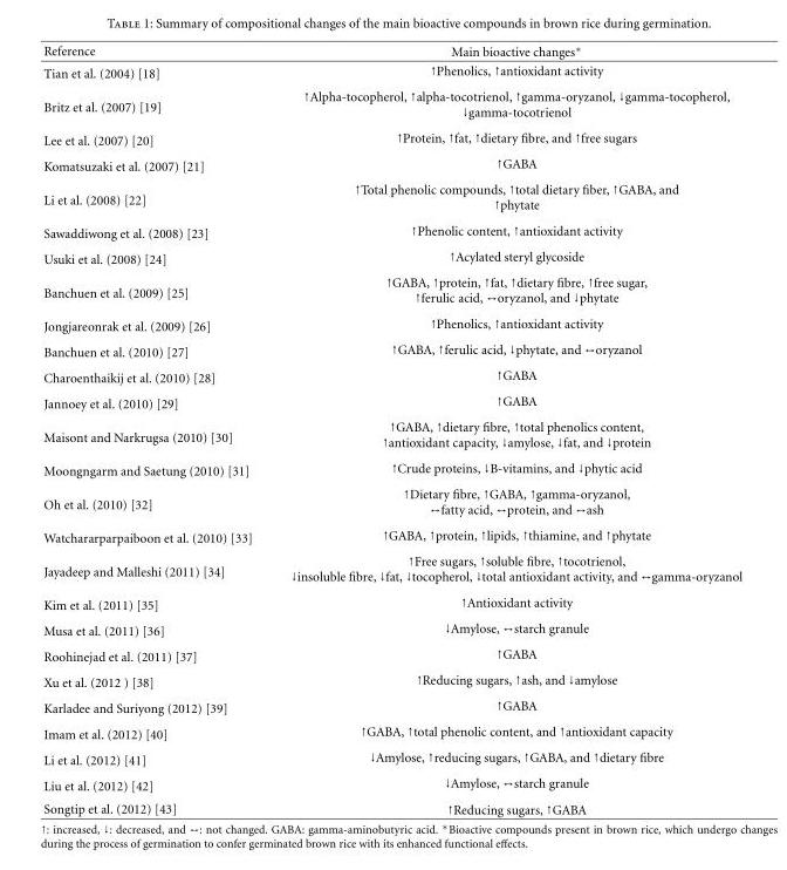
<table><thead><tr><td>Reference</td><td>Main bioactive changes∗</td></tr></thead><tbody><tr><td>Tian et al. (2004) [18]</td><td>↑Phenolics, ↑antioxidant activity</td></tr><tr><td>Britz et al. (2007) [19]</td><td>↑Alpha-tocopherol, ↑alpha-tocotrienol, ↑gamma-oryzanol, ↓gamma-tocopherol, ↓gamma-tocotrienol</td></tr><tr><td>Lee et al. (2007) [20]</td><td>↑Protein, ↑fat, ↑dietary fibre, and ↑free sugars</td></tr><tr><td>Komatsuzaki et al. (2007) [21]</td><td>↑GABA</td></tr><tr><td>Li et al. (2008) [22]</td><td>↑Total phenolic compounds, ↑total dietary fiber, ↑GABA, and ↑phytate</td></tr><tr><td>Sawaddiwong et al. (2008) [23]</td><td>↑Phenolic content, ↑antioxidant activity</td></tr><tr><td>Usuki et al. (2008) [24]</td><td>↑Acylated steryl glycoside</td></tr><tr><td>Banchuen et al. (2009) [25]</td><td>↑GABA, ↑protein, ↑fat, ↑dietary fibre, ↑free sugar, ↑ferulic acid, ↔oryzanol, and ↓phytate</td></tr><tr><td>Jongjareonrak et al. (2009) [26]</td><td>↑Phenolics, ↑antioxidant activity</td></tr><tr><td>Banchuen et al. (2010) [27]</td><td>↑GABA, ↑ferulic acid, ↓phytate, and ↔oryzanol</td></tr><tr><td>Charoenthaikij et al. (2010) [28]</td><td>↑GABA</td></tr><tr><td>Jannoey et al. (2010) [29]</td><td>↑GABA</td></tr><tr><td>Maisont and Narkrugsa (2010) [30]</td><td>↑GABA, ↑dietary fibre, ↑total phenolics content, ↑antioxidant capacity, ↓amylose, ↓fat, and ↓protein</td></tr><tr><td>Moongngarm and Saetung (2010) [31]</td><td>↑Crude proteins, ↓B-vitamins, and ↓phytic acid</td></tr><tr><td>Oh et al. (2010) [32]</td><td>↑Dietary fibre, ↑GABA, ↑gamma-oryzanol, ↔fatty acid, ↔protein, and ↔ash</td></tr><tr><td>Watchararparpaiboon et al. (2010) [33]</td><td>↑GABA, ↑protein, ↑lipids, ↑thiamine, and ↑phytate</td></tr><tr><td>Jayadeep and Malleshi (2011) [34]</td><td>↑Free sugars, ↑soluble fibre, ↑tocotrienol, ↓insoluble fibre, ↓fat, ↓tocopherol, ↓total antioxidant activity, and ↔gamma-oryzanol</td></tr><tr><td>Kim et al. (2011) [35]</td><td>↑Antioxidant activity</td></tr><tr><td>Musa et al. (2011) [36]</td><td>↓Amylose, ↔starch granule</td></tr><tr><td>Roohinejad et al. (2011) [37]</td><td>↑GABA</td></tr><tr><td>Xu et al. (2012 ) [38]</td><td>↑Reducing sugars, ↑ash, and ↓amylose</td></tr><tr><td>Karladee and Suriyong (2012) [39]</td><td>↑GABA</td></tr><tr><td>Imam et al. (2012) [40]</td><td>↑GABA, ↑total phenolic content, and ↑antioxidant capacity</td></tr><tr><td>Li et al. (2012) [41]</td><td>↓Amylose, ↑reducing sugars, ↑GABA, and ↑dietary fibre</td></tr><tr><td>Liu et al. (2012) [42]</td><td>↓Amylose, ↔starch granule</td></tr><tr><td>Songtip et al. (2012) [43]</td><td>↑Reducing sugars, ↑GABA</td></tr></tbody></table>